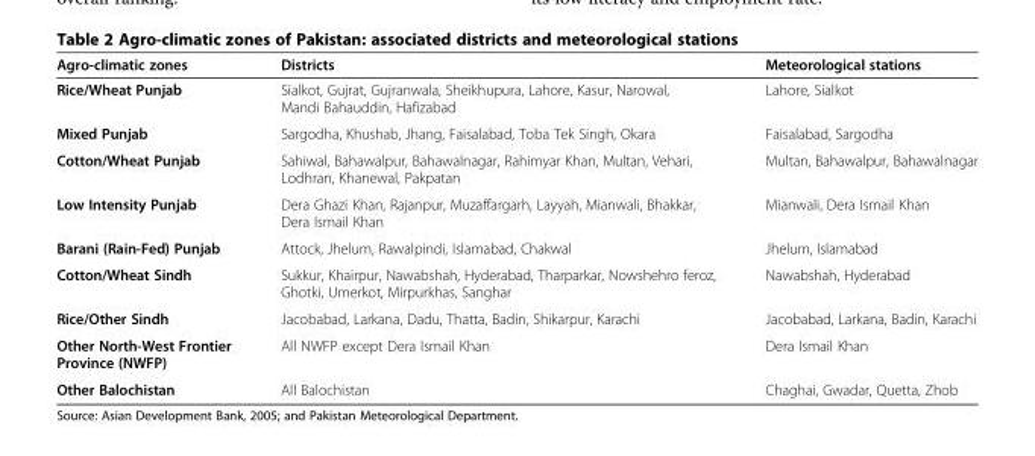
<table><thead><tr><td>Agro-climatic zones</td><td>Districts</td><td>Meteorological stations</td></tr></thead><tbody><tr><td>Rice/Wheat Punjab</td><td>Sialkot, Gujrat, Gujranwala, Sheikhupura, Lahore, Kasur, Narowal, Mandi Bahauddin, Hafizabad</td><td>Lahore, Sialkot</td></tr><tr><td>Mixed Punjab</td><td>Sargodha, Khushab, Jhang, Faisalabad, Toba Tek Singh, Okara</td><td>Faisalabad, Sargodha</td></tr><tr><td>Cotton/Wheat Punjab</td><td>Sahiwal, Bahawalpur, Bahawalnagar, Rahimyar Khan, Multan, Vehari, Lodhran, Khanewal, Pakpatan</td><td>Multan, Bahawalpur, Bahawalnagar</td></tr><tr><td>Low Intensity Punjab</td><td>Dera Ghazi Khan, Rajanpur, Muzaffargarh, Layyah, Mianwali, Bhakkar, Dera Ismail Khan</td><td>Mianwali, Dera Ismail Khan</td></tr><tr><td>Barani (Rain-Fed) Punjab</td><td>Attock, Jhelum, Rawalpindi, Islamabad, Chakwal</td><td>Jhelum, Islamabad</td></tr><tr><td>Cotton/Wheat Sindh</td><td>Sukkur, Khairpur, Nawabshah, Hyderabad, Tharparkar, Nowshehro feroz, Ghotki, Umerkot, Mirpurkhas, Sanghar</td><td>Nawabshah, Hyderabad</td></tr><tr><td>Rice/Other Sindh</td><td>Jacobabad, Larkana, Dadu, Thatta, Badin, Shikarpur, Karachi</td><td>Jacobabad, Larkana, Badin, Karachi</td></tr><tr><td>Other North-West Frontier Province (NWFP)</td><td>All NWFP except Dera Ismail Khan</td><td>Dera Ismail Khan</td></tr><tr><td>Other Balochistan</td><td>All Balochistan</td><td>Chaghai, Gwadar, Quetta, Zhob</td></tr></tbody></table>